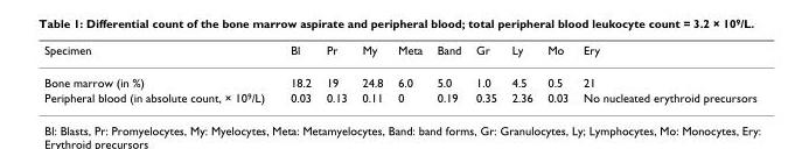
<table><thead><tr><td>Specimen</td><td>Bl</td><td>Pr</td><td>My</td><td>Meta</td><td>Band</td><td>Gr</td><td>Ly</td><td>Mo</td><td>Ery</td></tr></thead><tbody><tr><td>Bone marrow (in %)</td><td>18.2</td><td>19</td><td>24.8</td><td>6.0</td><td>5.0</td><td>1.0</td><td>4.5</td><td>0.5</td><td>21</td></tr><tr><td>Peripheral blood (in absolute count, × 10<sup>9</sup>/L)</td><td>0.03</td><td>0.13</td><td>0.11</td><td>0</td><td>0.19</td><td>0.35</td><td>2.36</td><td>0.03</td><td>No nucleated erythroid precursors</td></tr></tbody></table>